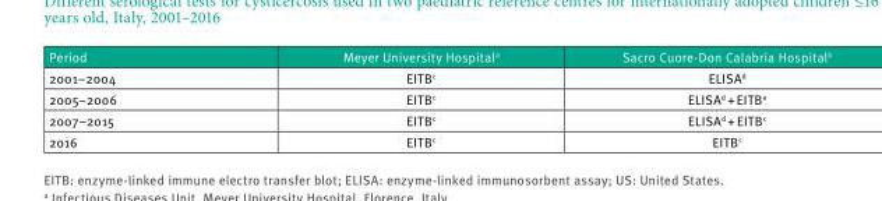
<table><thead><tr><td>Period</td><td>Meyer University Hospital<sup>a</sup></td><td>Sacro Cuore-Don Calabria Hospital<sup>b</sup></td></tr></thead><tbody><tr><td>2001–2004</td><td>EITB<sup>c</sup></td><td>ELISA<sup>d</sup></td></tr><tr><td>2005–2006</td><td>EITB<sup>c</sup></td><td>ELISA<sup>d</sup> + EITB<sup>e</sup></td></tr><tr><td>2007–2015</td><td>EITB<sup>c</sup></td><td>ELISA<sup>d</sup> + EITB<sup>c</sup></td></tr><tr><td>2016</td><td>EITB<sup>c</sup></td><td>EITB<sup>c</sup></td></tr></tbody></table>